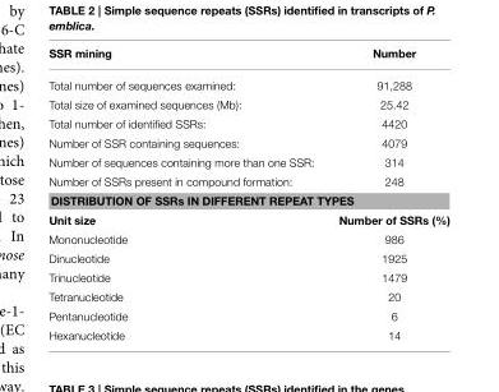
<table><thead><tr><td>SSR mining</td><td>Number</td></tr></thead><tbody><tr><td>Total number of sequences examined:</td><td>91,288</td></tr><tr><td>Total size of examined sequences (Mb):</td><td>25.42</td></tr><tr><td>Total number of identified SSRs:</td><td>4420</td></tr><tr><td>Number of SSR containing sequences:</td><td>4079</td></tr><tr><td>Number of sequences containing more than one SSR:</td><td>314</td></tr><tr><td>Number of SSRs present in compound formation:</td><td>248</td></tr><tr><td colspan="2">DISTRIBUTION OF SSRs IN DIFFERENT REPEAT TYPES</td></tr><tr><td>Unit size</td><td>Number of SSRs (%)</td></tr><tr><td>Mononucleotide</td><td>986</td></tr><tr><td>Dinucleotide</td><td>1925</td></tr><tr><td>Trinucleotide</td><td>1479</td></tr><tr><td>Tetranucleotide</td><td>20</td></tr><tr><td>Pentanucleotide</td><td>6</td></tr><tr><td>Hexanucleotide</td><td>14</td></tr></tbody></table>